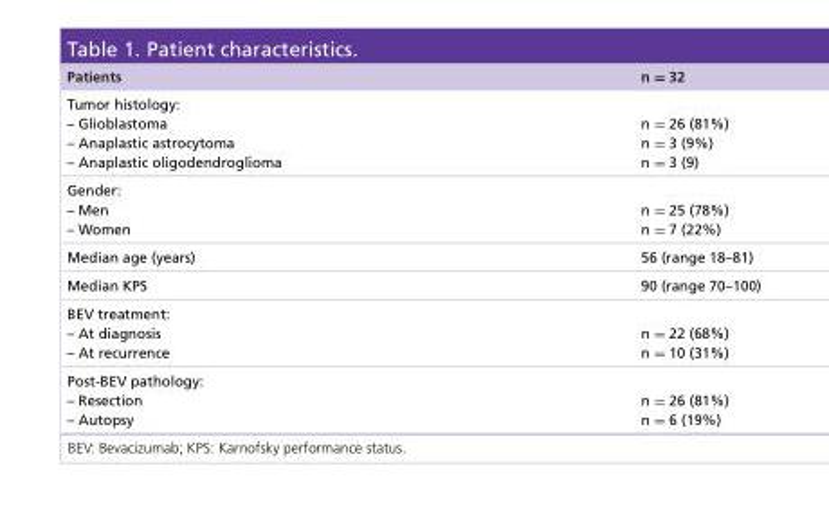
<table><thead><tr><td>Patients</td><td>n = 32</td></tr></thead><tbody><tr><td>Tumor histology: – Glioblastoma – Anaplastic astrocytoma – Anaplastic oligodendroglioma</td><td>n = 26 (81%) n = 3 (9%) n = 3 (9)</td></tr><tr><td>Gender: – Men – Women</td><td>n = 25 (78%) n = 7 (22%)</td></tr><tr><td>Median age (years)</td><td>56 (range 18–81)</td></tr><tr><td>Median KPS</td><td>90 (range 70–100)</td></tr><tr><td>BEV treatment: – At diagnosis – At recurrence</td><td>n = 22 (68%) n = 10 (31%)</td></tr><tr><td>Post-BEV pathology: – Resection – Autopsy</td><td>n = 26 (81%) n = 6 (19%)</td></tr></tbody></table>